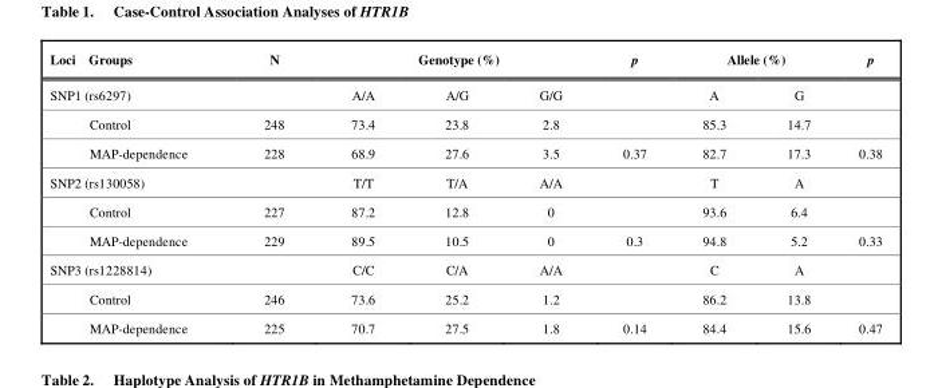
<table><thead><tr><td rowspan="2">Loci Groups SNP1 (rs6297)</td><td rowspan="2">N �</td><td rowspan="2">A/A</td><td rowspan="2">Genotype (%) A/G</td><td rowspan="2">G/G</td><td rowspan="2">p</td><td colspan="2">Allele (%)</td><td rowspan="2">p</td></tr><tr><td>A</td><td>G</td></tr></thead><tbody><tr><td>Control</td><td>248</td><td>73.4</td><td>23.8</td><td>2.8</td><td></td><td>85.3</td><td>14.7</td><td></td></tr><tr><td>MAP-dependence</td><td>228</td><td>68.9</td><td>27.6</td><td>3.5</td><td>0.37</td><td>82.7</td><td>17.3</td><td>0.38</td></tr><tr><td>SNP2 (rs130058)</td><td></td><td>T/T</td><td>T/A</td><td>A/A</td><td></td><td>T</td><td>A</td><td></td></tr><tr><td>Control</td><td>227</td><td>87.2</td><td>12.8</td><td>0</td><td></td><td>93.6</td><td>6.4</td><td></td></tr><tr><td>MAP-dependence</td><td>229</td><td>89.5</td><td>10.5</td><td>0</td><td>0.3</td><td>94.8</td><td>5.2</td><td>0.33</td></tr><tr><td>SNP3 (rs1228814)</td><td></td><td>C/C</td><td>C/A</td><td>A/A</td><td></td><td>C</td><td>A</td><td></td></tr><tr><td>Control</td><td>246</td><td>73.6</td><td>25.2</td><td>1.2</td><td></td><td>86.2</td><td>13.8</td><td></td></tr><tr><td>MAP-dependence</td><td>225</td><td>70.7</td><td>27.5</td><td>1.8</td><td>0.14</td><td>84.4</td><td>15.6</td><td>0.47</td></tr></tbody></table>